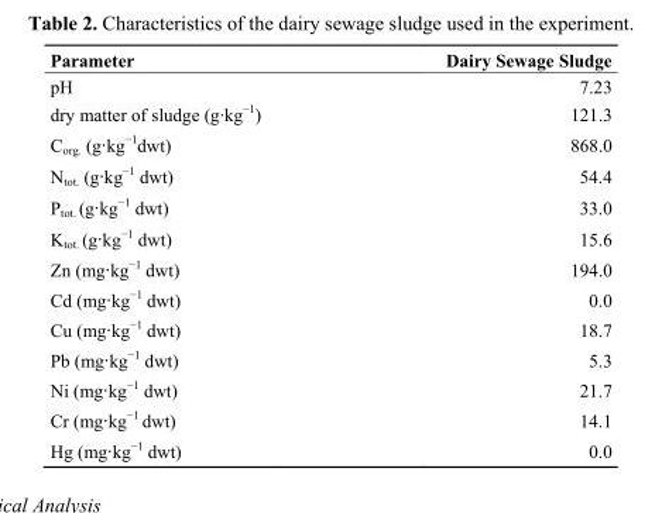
<table><thead><tr><td>Parameter</td><td>Dairy Sewage Sludge</td></tr></thead><tbody><tr><td>pH</td><td>7.23</td></tr><tr><td>dry matter of sludge (g·kg<sup>−1</sup>)</td><td>121.3</td></tr><tr><td>C<sub>org.</sub> (g·kg<sup>−1</sup>dwt)</td><td>868.0</td></tr><tr><td>N<sub>tot.</sub> (g·kg<sup>−1</sup> dwt)</td><td>54.4</td></tr><tr><td>P<sub>tot.</sub> (g·kg<sup>−1</sup> dwt)</td><td>33.0</td></tr><tr><td>K<sub>tot.</sub> (g·kg<sup>−1</sup> dwt)</td><td>15.6</td></tr><tr><td>Zn (mg·kg<sup>−1</sup> dwt)</td><td>194.0</td></tr><tr><td>Cd (mg·kg<sup>−1</sup> dwt)</td><td>0.0</td></tr><tr><td>Cu (mg·kg<sup>−1</sup> dwt)</td><td>18.7</td></tr><tr><td>Pb (mg·kg<sup>−1</sup> dwt)</td><td>5.3</td></tr><tr><td>Ni (mg·kg<sup>−1</sup> dwt)</td><td>21.7</td></tr><tr><td>Cr (mg·kg<sup>−1</sup> dwt)</td><td>14.1</td></tr><tr><td>Hg (mg·kg<sup>−1</sup> dwt)</td><td>0.0</td></tr></tbody></table>